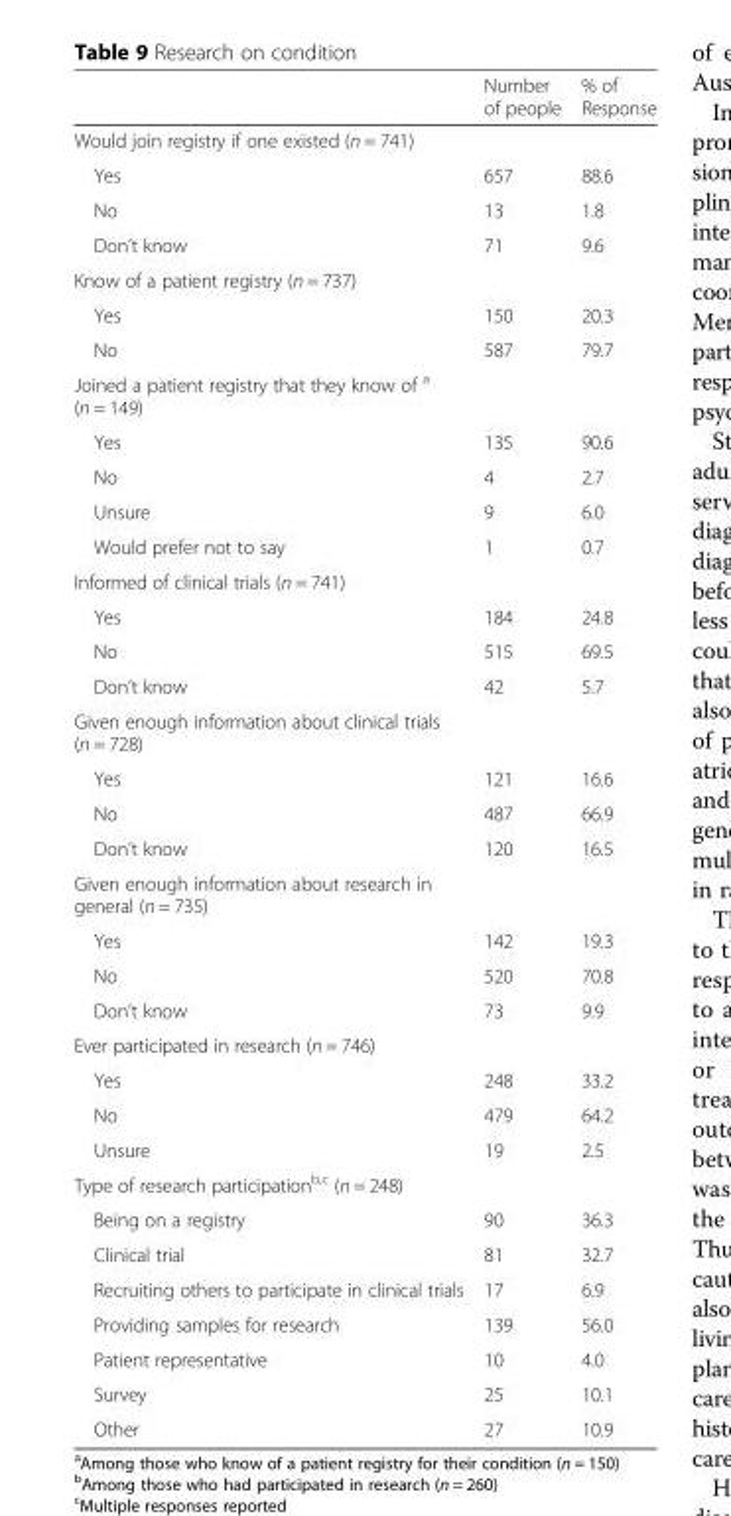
<table><thead><tr><td></td><td>Number of people</td><td>% of Response</td></tr></thead><tbody><tr><td colspan="3">Would join registry if one existed (n = 741)</td></tr><tr><td>Yes</td><td>657</td><td>88.6</td></tr><tr><td>No</td><td>13</td><td>1.8</td></tr><tr><td>Don’t know</td><td>71</td><td>9.6</td></tr><tr><td colspan="3">Know of a patient registry (n = 737)</td></tr><tr><td>Yes</td><td>150</td><td>20.3</td></tr><tr><td>No</td><td>587</td><td>79.7</td></tr><tr><td colspan="3">Joined a patient registry that they know of <sup>a</sup> (n = 149)</td></tr><tr><td>Yes</td><td>135</td><td>90.6</td></tr><tr><td>No</td><td>4</td><td>2.7</td></tr><tr><td>Unsure</td><td>9</td><td>6.0</td></tr><tr><td>Would prefer not to say</td><td>1</td><td>0.7</td></tr><tr><td colspan="3">Informed of clinical trials (n = 741)</td></tr><tr><td>Yes</td><td>184</td><td>24.8</td></tr><tr><td>No</td><td>515</td><td>69.5</td></tr><tr><td>Don’t know</td><td>42</td><td>5.7</td></tr><tr><td colspan="3">Given enough information about clinical trials (n = 728)</td></tr><tr><td>Yes</td><td>121</td><td>16.6</td></tr><tr><td>No</td><td>487</td><td>66.9</td></tr><tr><td>Don’t know</td><td>120</td><td>16.5</td></tr><tr><td colspan="3">Given enough information about research in general (n = 735)</td></tr><tr><td>Yes</td><td>142</td><td>19.3</td></tr><tr><td>No</td><td>520</td><td>70.8</td></tr><tr><td>Don’t know</td><td>73</td><td>9.9</td></tr><tr><td colspan="3">Ever participated in research (n = 746)</td></tr><tr><td>Yes</td><td>248</td><td>33.2</td></tr><tr><td>No</td><td>479</td><td>64.2</td></tr><tr><td>Unsure</td><td>19</td><td>2.5</td></tr><tr><td colspan="3">Type of research participation<sup>b,c</sup> (n = 248)</td></tr><tr><td>Being on a registry</td><td>90</td><td>36.3</td></tr><tr><td>Clinical trial</td><td>81</td><td>32.7</td></tr><tr><td>Recruiting others to participate in clinical trials</td><td>17</td><td>6.9</td></tr><tr><td>Providing samples for research</td><td>139</td><td>56.0</td></tr><tr><td>Patient representative</td><td>10</td><td>4.0</td></tr><tr><td>Survey</td><td>25</td><td>10.1</td></tr><tr><td>Other</td><td>27</td><td>10.9</td></tr></tbody></table>